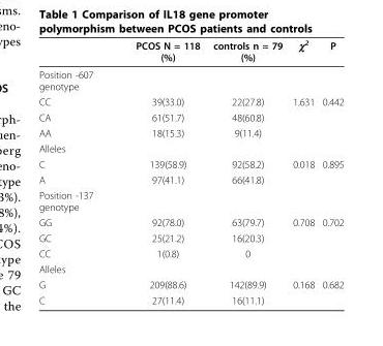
<table><thead><tr><td></td><td>PCOS N = 118 (%)</td><td>controls n = 79 (%)</td><td>χ<sup>2</sup></td><td>P</td></tr></thead><tbody><tr><td colspan="5">Position -607 genotype</td></tr><tr><td>CC</td><td>39(33.0)</td><td>22(27.8)</td><td>1.631</td><td>0.442</td></tr><tr><td>CA</td><td>61(51.7)</td><td>48(60.8)</td><td></td><td></td></tr><tr><td>AA</td><td>18(15.3)</td><td>9(11.4)</td><td></td><td></td></tr><tr><td colspan="5">Alleles</td></tr><tr><td>C</td><td>139(58.9)</td><td>92(58.2)</td><td>0.018</td><td>0.895</td></tr><tr><td>A</td><td>97(41.1)</td><td>66(41.8)</td><td></td><td></td></tr><tr><td colspan="5">Position -137 genotype</td></tr><tr><td>GG</td><td>92(78.0)</td><td>63(79.7)</td><td>0.708</td><td>0.702</td></tr><tr><td>GC</td><td>25(21.2)</td><td>16(20.3)</td><td></td><td></td></tr><tr><td>CC</td><td>1(0.8)</td><td>0</td><td></td><td></td></tr><tr><td colspan="5">Alleles</td></tr><tr><td>G</td><td>209(88.6)</td><td>142(89.9)</td><td>0.168</td><td>0.682</td></tr><tr><td>C</td><td>27(11.4)</td><td>16(11.1)</td><td></td><td></td></tr></tbody></table>